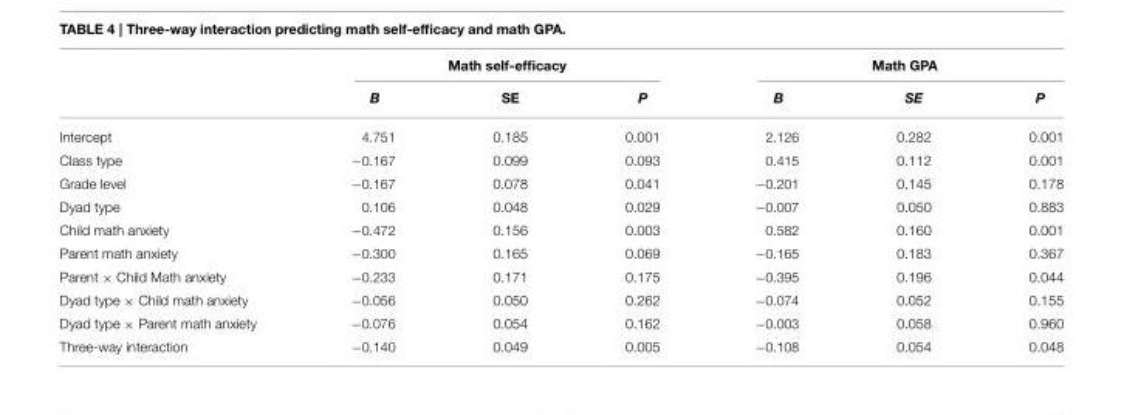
<table><thead><tr><td rowspan="2"></td><td colspan="3">Math self-efficacy</td><td colspan="3">Math GPA</td></tr><tr><td>B</td><td>SE</td><td>P</td><td>B</td><td>SE</td><td>P</td></tr></thead><tbody><tr><td>Intercept</td><td>4.751</td><td>0.185</td><td>0.001</td><td>2.126</td><td>0.282</td><td>0.001</td></tr><tr><td>Class type</td><td>−0.167</td><td>0.099</td><td>0.093</td><td>0.415</td><td>0.112</td><td>0.001</td></tr><tr><td>Grade level</td><td>−0.167</td><td>0.078</td><td>0.041</td><td>−0.201</td><td>0.145</td><td>0.178</td></tr><tr><td>Dyad type</td><td>0.106</td><td>0.048</td><td>0.029</td><td>−0.007</td><td>0.050</td><td>0.883</td></tr><tr><td>Child math anxiety</td><td>−0.472</td><td>0.156</td><td>0.003</td><td>0.582</td><td>0.160</td><td>0.001</td></tr><tr><td>Parent math anxiety</td><td>−0.300</td><td>0.165</td><td>0.069</td><td>−0.165</td><td>0.183</td><td>0.367</td></tr><tr><td>Parent × Child Math anxiety</td><td>−0.233</td><td>0.171</td><td>0.175</td><td>−0.395</td><td>0.196</td><td>0.044</td></tr><tr><td>Dyad type × Child math anxiety</td><td>−0.056</td><td>0.050</td><td>0.262</td><td>−0.074</td><td>0.052</td><td>0.155</td></tr><tr><td>Dyad type × Parent math anxiety</td><td>−0.076</td><td>0.054</td><td>0.162</td><td>−0.003</td><td>0.058</td><td>0.960</td></tr><tr><td>Three-way interaction</td><td>−0.140</td><td>0.049</td><td>0.005</td><td>−0.108</td><td>0.054</td><td>0.048</td></tr></tbody></table>